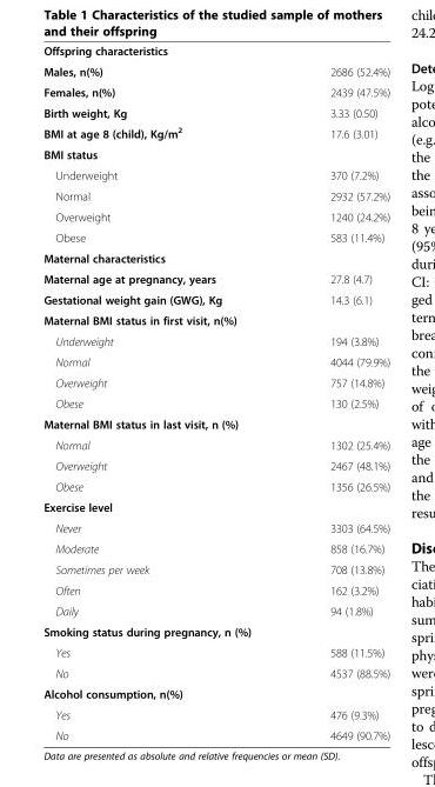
<table><tbody><tr><td colspan="2">Offspring characteristics</td></tr><tr><td>Males, n(%)</td><td>2686 (52.4%)</td></tr><tr><td>Females, n(%)</td><td>2439 (47.5%)</td></tr><tr><td>Birth weight, Kg</td><td>3.33 (0.50)</td></tr><tr><td>BMI at age 8 (child), Kg/m<sup>2</sup></td><td>17.6 (3.01)</td></tr><tr><td colspan="2">BMI status</td></tr><tr><td>Underweight</td><td>370 (7.2%)</td></tr><tr><td>Normal</td><td>2932 (57.2%)</td></tr><tr><td>Overweight</td><td>1240 (24.2%)</td></tr><tr><td>Obese</td><td>583 (11.4%)</td></tr><tr><td colspan="2">Maternal characteristics</td></tr><tr><td>Maternal age at pregnancy, years</td><td>27.8 (4.7)</td></tr><tr><td>Gestational weight gain (GWG), Kg</td><td>14.3 (6.1)</td></tr><tr><td colspan="2">Maternal BMI status in first visit, n(%)</td></tr><tr><td>Underweight</td><td>194 (3.8%)</td></tr><tr><td>Normal</td><td>4044 (79.9%)</td></tr><tr><td>Overweight</td><td>757 (14.8%)</td></tr><tr><td>Obese</td><td>130 (2.5%)</td></tr><tr><td colspan="2">Maternal BMI status in last visit, n (%)</td></tr><tr><td>Normal</td><td>1302 (25.4%)</td></tr><tr><td>Overweight</td><td>2467 (48.1%)</td></tr><tr><td>Obese</td><td>1356 (26.5%)</td></tr><tr><td colspan="2">Exercise level</td></tr><tr><td>Never</td><td>3303 (64.5%)</td></tr><tr><td>Moderate</td><td>858 (16.7%)</td></tr><tr><td>Sometimes per week</td><td>708 (13.8%)</td></tr><tr><td>Often</td><td>162 (3.2%)</td></tr><tr><td>Daily</td><td>94 (1.8%)</td></tr><tr><td colspan="2">Smoking status during pregnancy, n (%)</td></tr><tr><td>Yes</td><td>588 (11.5%)</td></tr><tr><td>No</td><td>4537 (88.5%)</td></tr><tr><td colspan="2">Alcohol consumption, n(%)</td></tr><tr><td>Yes</td><td>476 (9.3%)</td></tr><tr><td>No</td><td>4649 (90.7%)</td></tr></tbody></table>